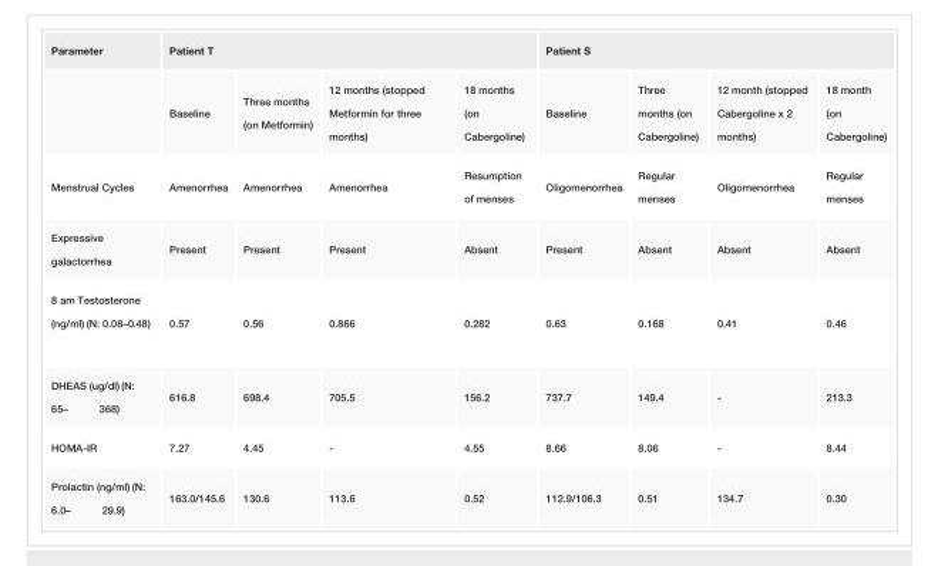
<table><tbody><tr><td rowspan="2">Parameter</td><td colspan="4">Patient T</td><td colspan="4">Patient S</td></tr><tr><td>Baseline</td><td>Three months (on Metformin)</td><td>12 months (stopped Metformin for three months)</td><td>18 months (on Cabergoline)</td><td>Baseline</td><td>Three months (on Cabergoline)</td><td>12 month (stopped Cabergoline x 2 months)</td><td>18 month (on Cabergoline)</td></tr><tr><td>Menstrual Cycles</td><td>Amenorrhea</td><td>Amenorrhea</td><td>Amenorrhea</td><td>Resumption of menses</td><td>Oligomenorrhea</td><td>Regular menses</td><td>Oligomenorrhea</td><td>Regular menses</td></tr><tr><td>Expressive galactorrhea</td><td>Present</td><td>Present</td><td>Present</td><td>Absent</td><td>Present</td><td>Absent</td><td>Absent</td><td>Absent</td></tr><tr><td>8 am Testosterone (ng/ml) (N: 0.08–0.48)</td><td>0.57</td><td>0.56</td><td>0.866</td><td>0.282</td><td>0.63</td><td>0.168</td><td>0.41</td><td>0.46</td></tr><tr><td>DHEAS (ug/dl) (N: 65–368)</td><td>616.8</td><td>698.4</td><td>705.5</td><td>156.2</td><td>737.7</td><td>149.4</td><td>-</td><td>213.3</td></tr><tr><td>HOMA-IR</td><td>7.27</td><td>4.45</td><td>-</td><td>4.55</td><td>8.66</td><td>8.06</td><td>-</td><td>8.44</td></tr><tr><td>Prolactin (ng/ml) (N: 6.0–29.9)</td><td>163.0/145.6</td><td>130.6</td><td>113.6</td><td>0.52</td><td>112.9/106.3</td><td>0.51</td><td>134.7</td><td>0.30</td></tr></tbody></table>